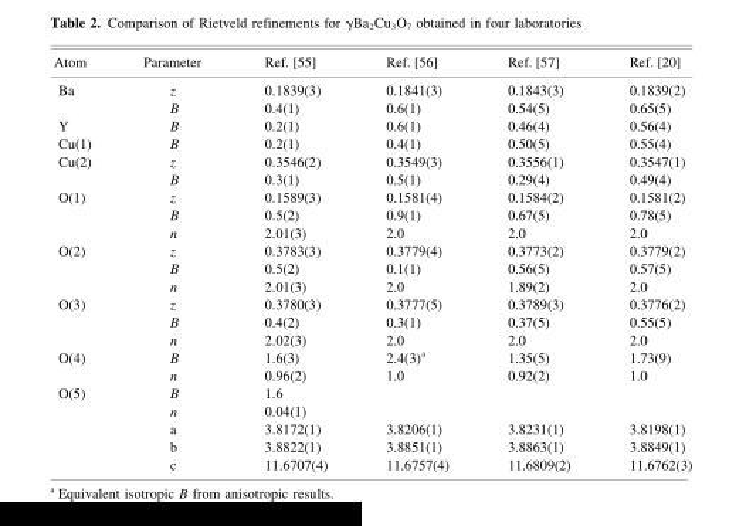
<table><thead><tr><td>Atom</td><td>Parameter</td><td>Ref. [55]</td><td>Ref. [56]</td><td>Ref. [57]</td><td>Ref. [20]</td></tr></thead><tbody><tr><td rowspan="2">Ba</td><td>z</td><td>0.1839(3)</td><td>0.1841(3)</td><td>0.1843(3)</td><td>0.1839(2)</td></tr><tr><td>B</td><td>0.4(1)</td><td>0.6(1)</td><td>0.54(5)</td><td>0.65(5)</td></tr><tr><td>Y</td><td>B</td><td>0.2(1)</td><td>0.6(1)</td><td>0.46(4)</td><td>0.56(4)</td></tr><tr><td>Cu(1)</td><td>B</td><td>0.2(1)</td><td>0.4(1)</td><td>0.50(5)</td><td>0.55(4)</td></tr><tr><td rowspan="2">Cu(2)</td><td>z</td><td>0.3546(2)</td><td>0.3549(3)</td><td>0.3556(1)</td><td>0.3547(1)</td></tr><tr><td>B</td><td>0.3(1)</td><td>0.5(1)</td><td>0.29(4)</td><td>0.49(4)</td></tr><tr><td rowspan="3">O(1)</td><td>z</td><td>0.1589(3)</td><td>0.1581(4)</td><td>0.1584(2)</td><td>0.1581(2)</td></tr><tr><td>B</td><td>0.5(2)</td><td>0.9(1)</td><td>0.67(5)</td><td>0.78(5)</td></tr><tr><td>n</td><td>2.01(3)</td><td>2.0</td><td>2.0</td><td>2.0</td></tr><tr><td rowspan="3">O(2)</td><td>z</td><td>0.3783(3)</td><td>0.3779(4)</td><td>0.3773(2)</td><td>0.3779(2)</td></tr><tr><td>B</td><td>0.5(2)</td><td>0.1(1)</td><td>0.56(5)</td><td>0.57(5)</td></tr><tr><td>n</td><td>2.01(3)</td><td>2.0</td><td>1.89(2)</td><td>2.0</td></tr><tr><td rowspan="3">O(3)</td><td>z</td><td>0.3780(3)</td><td>0.3777(5)</td><td>0.3789(3)</td><td>0.3776(2)</td></tr><tr><td>B</td><td>0.4(2)</td><td>0.3(1)</td><td>0.37(5)</td><td>0.55(5)</td></tr><tr><td>n</td><td>2.02(3)</td><td>2.0</td><td>2.0</td><td>2.0</td></tr><tr><td rowspan="2">O(4)</td><td>B</td><td>1.6(3)</td><td>2.4(3)<sup>a</sup></td><td>1.35(5)</td><td>1.73(9)</td></tr><tr><td>n</td><td>0.96(2)</td><td>1.0</td><td>0.92(2)</td><td>1.0</td></tr><tr><td rowspan="5">O(5)</td><td>B</td><td>1.6</td><td></td><td></td><td></td></tr><tr><td>n</td><td>0.04(1)</td><td></td><td></td><td></td></tr><tr><td>a</td><td>3.8172(1)</td><td>3.8206(1)</td><td>3.8231(1)</td><td>3.8198(1)</td></tr><tr><td>b</td><td>3.8822(1)</td><td>3.8851(1)</td><td>3.8863(1)</td><td>3.8849(1)</td></tr><tr><td>c</td><td>11.6707(4)</td><td>11.6757(4)</td><td>11.6809(2)</td><td>11.6762(3)</td></tr></tbody></table>